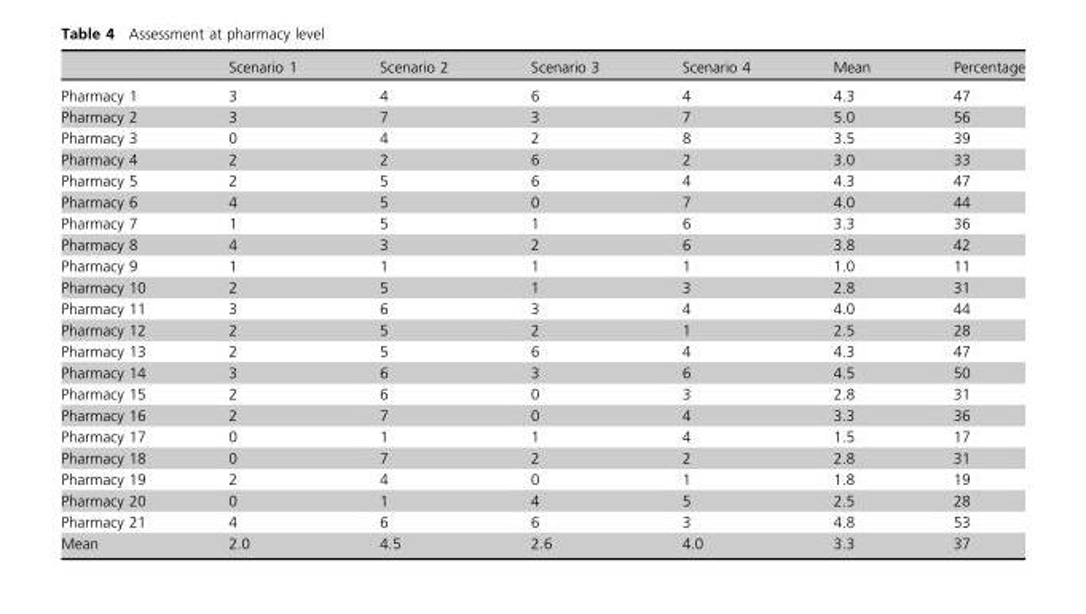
<table><thead><tr><td></td><td>Scenario 1</td><td>Scenario 2</td><td>Scenario 3</td><td>Scenario 4</td><td>Mean</td><td>Percentage</td></tr></thead><tbody><tr><td>Pharmacy 1</td><td>3</td><td>4</td><td>6</td><td>4</td><td>4.3</td><td>47</td></tr><tr><td>Pharmacy 2</td><td>3</td><td>7</td><td>3</td><td>7</td><td>5.0</td><td>56</td></tr><tr><td>Pharmacy 3</td><td>0</td><td>4</td><td>2</td><td>8</td><td>3.5</td><td>39</td></tr><tr><td>Pharmacy 4</td><td>2</td><td>2</td><td>6</td><td>2</td><td>3.0</td><td>33</td></tr><tr><td>Pharmacy 5</td><td>2</td><td>5</td><td>6</td><td>4</td><td>4.3</td><td>47</td></tr><tr><td>Pharmacy 6</td><td>4</td><td>5</td><td>0</td><td>7</td><td>4.0</td><td>44</td></tr><tr><td>Pharmacy 7</td><td>1</td><td>5</td><td>1</td><td>6</td><td>3.3</td><td>36</td></tr><tr><td>Pharmacy 8</td><td>4</td><td>3</td><td>2</td><td>6</td><td>3.8</td><td>42</td></tr><tr><td>Pharmacy 9</td><td>1</td><td>1</td><td>1</td><td>1</td><td>1.0</td><td>11</td></tr><tr><td>Pharmacy 10</td><td>2</td><td>5</td><td>1</td><td>3</td><td>2.8</td><td>31</td></tr><tr><td>Pharmacy 11</td><td>3</td><td>6</td><td>3</td><td>4</td><td>4.0</td><td>44</td></tr><tr><td>Pharmacy 12</td><td>2</td><td>5</td><td>2</td><td>1</td><td>2.5</td><td>28</td></tr><tr><td>Pharmacy 13</td><td>2</td><td>5</td><td>6</td><td>4</td><td>4.3</td><td>47</td></tr><tr><td>Pharmacy 14</td><td>3</td><td>6</td><td>3</td><td>6</td><td>4.5</td><td>50</td></tr><tr><td>Pharmacy 15</td><td>2</td><td>6</td><td>0</td><td>3</td><td>2.8</td><td>31</td></tr><tr><td>Pharmacy 16</td><td>2</td><td>7</td><td>0</td><td>4</td><td>3.3</td><td>36</td></tr><tr><td>Pharmacy 17</td><td>0</td><td>1</td><td>1</td><td>4</td><td>1.5</td><td>17</td></tr><tr><td>Pharmacy 18</td><td>0</td><td>7</td><td>2</td><td>2</td><td>2.8</td><td>31</td></tr><tr><td>Pharmacy 19</td><td>2</td><td>4</td><td>0</td><td>1</td><td>1.8</td><td>19</td></tr><tr><td>Pharmacy 20</td><td>0</td><td>1</td><td>4</td><td>5</td><td>2.5</td><td>28</td></tr><tr><td>Pharmacy 21</td><td>4</td><td>6</td><td>6</td><td>3</td><td>4.8</td><td>53</td></tr><tr><td>Mean</td><td>2.0</td><td>4.5</td><td>2.6</td><td>4.0</td><td>3.3</td><td>37</td></tr></tbody></table>